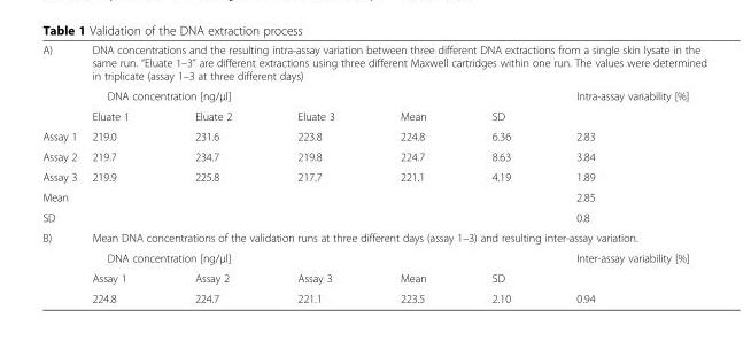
<table><tbody><tr><td rowspan="3">A)</td><td colspan="6">DNA concentrations and the resulting intra-assay variation between three different DNA extractions from a single skin lysate in the same run. “Eluate 1–3” are different extractions using three different Maxwell cartridges within one run. The values were determined in triplicate (assay 1–3 at three different days)</td></tr><tr><td colspan="5">DNA concentration [ng/μl]</td><td>Intra-assay variability [%]</td></tr><tr><td>Eluate 1</td><td>Eluate 2</td><td>Eluate 3</td><td>Mean</td><td>SD</td><td></td></tr><tr><td>Assay 1</td><td>219.0</td><td>231.6</td><td>223.8</td><td>224.8</td><td>6.36</td><td>2.83</td></tr><tr><td>Assay 2</td><td>219.7</td><td>234.7</td><td>219.8</td><td>224.7</td><td>8.63</td><td>3.84</td></tr><tr><td>Assay 3</td><td>219.9</td><td>225.8</td><td>217.7</td><td>221.1</td><td>4.19</td><td>1.89</td></tr><tr><td>Mean</td><td colspan="5"></td><td>2.85</td></tr><tr><td>SD</td><td colspan="5"></td><td>0.8</td></tr><tr><td rowspan="4">B)</td><td colspan="6">Mean DNA concentrations of the validation runs at three different days (assay 1–3) and resulting inter-assay variation.</td></tr><tr><td colspan="5">DNA concentration [ng/μl]</td><td>Inter-assay variability [%]</td></tr><tr><td>Assay 1</td><td>Assay 2</td><td>Assay 3</td><td>Mean</td><td>SD</td><td></td></tr><tr><td>224.8</td><td>224.7</td><td>221.1</td><td>223.5</td><td>2.10</td><td>0.94</td></tr></tbody></table>